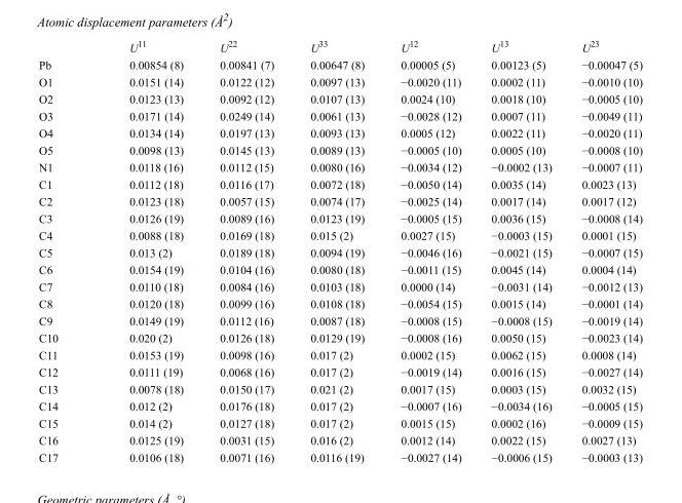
<table><thead><tr><td></td><td>U<sup>11</sup></td><td>U<sup>22</sup></td><td>U<sup>33</sup></td><td>U<sup>12</sup></td><td>U<sup>13</sup></td><td>U<sup>23</sup></td></tr></thead><tbody><tr><td>Pb</td><td>0.00854 (8)</td><td>0.00841 (7)</td><td>0.00647 (8)</td><td>0.00005 (5)</td><td>0.00123 (5)</td><td>−0.00047 (5)</td></tr><tr><td>O1</td><td>0.0151 (14)</td><td>0.0122 (12)</td><td>0.0097 (13)</td><td>−0.0020 (11)</td><td>0.0002 (11)</td><td>−0.0010 (10)</td></tr><tr><td>O2</td><td>0.0123 (13)</td><td>0.0092 (12)</td><td>0.0107 (13)</td><td>0.0024 (10)</td><td>0.0018 (10)</td><td>−0.0005 (10)</td></tr><tr><td>O3</td><td>0.0171 (14)</td><td>0.0249 (14)</td><td>0.0061 (13)</td><td>−0.0028 (12)</td><td>0.0007 (11)</td><td>−0.0049 (11)</td></tr><tr><td>O4</td><td>0.0134 (14)</td><td>0.0197 (13)</td><td>0.0093 (13)</td><td>0.0005 (12)</td><td>0.0022 (11)</td><td>−0.0020 (11)</td></tr><tr><td>O5</td><td>0.0098 (13)</td><td>0.0145 (13)</td><td>0.0089 (13)</td><td>−0.0005 (10)</td><td>0.0005 (10)</td><td>−0.0008 (10)</td></tr><tr><td>N1</td><td>0.0118 (16)</td><td>0.0112 (15)</td><td>0.0080 (16)</td><td>−0.0034 (12)</td><td>−0.0002 (13)</td><td>−0.0007 (11)</td></tr><tr><td>C1</td><td>0.0112 (18)</td><td>0.0116 (17)</td><td>0.0072 (18)</td><td>−0.0050 (14)</td><td>0.0035 (14)</td><td>0.0023 (13)</td></tr><tr><td>C2</td><td>0.0123 (18)</td><td>0.0057 (15)</td><td>0.0074 (17)</td><td>−0.0025 (14)</td><td>0.0017 (14)</td><td>0.0017 (12)</td></tr><tr><td>C3</td><td>0.0126 (19)</td><td>0.0089 (16)</td><td>0.0123 (19)</td><td>−0.0005 (15)</td><td>0.0036 (15)</td><td>−0.0008 (14)</td></tr><tr><td>C4</td><td>0.0088 (18)</td><td>0.0169 (18)</td><td>0.015 (2)</td><td>0.0027 (15)</td><td>−0.0003 (15)</td><td>0.0001 (15)</td></tr><tr><td>C5</td><td>0.013 (2)</td><td>0.0189 (18)</td><td>0.0094 (19)</td><td>−0.0046 (16)</td><td>−0.0021 (15)</td><td>−0.0007 (15)</td></tr><tr><td>C6</td><td>0.0154 (19)</td><td>0.0104 (16)</td><td>0.0080 (18)</td><td>−0.0011 (15)</td><td>0.0045 (14)</td><td>0.0004 (14)</td></tr><tr><td>C7</td><td>0.0110 (18)</td><td>0.0084 (16)</td><td>0.0103 (18)</td><td>0.0000 (14)</td><td>−0.0031 (14)</td><td>−0.0012 (13)</td></tr><tr><td>C8</td><td>0.0120 (18)</td><td>0.0099 (16)</td><td>0.0108 (18)</td><td>−0.0054 (15)</td><td>0.0015 (14)</td><td>−0.0001 (14)</td></tr><tr><td>C9</td><td>0.0149 (19)</td><td>0.0112 (16)</td><td>0.0087 (18)</td><td>−0.0008 (15)</td><td>−0.0008 (15)</td><td>−0.0019 (14)</td></tr><tr><td>C10</td><td>0.020 (2)</td><td>0.0126 (18)</td><td>0.0129 (19)</td><td>−0.0008 (16)</td><td>0.0050 (15)</td><td>−0.0023 (14)</td></tr><tr><td>C11</td><td>0.0153 (19)</td><td>0.0098 (16)</td><td>0.017 (2)</td><td>0.0002 (15)</td><td>0.0062 (15)</td><td>0.0008 (14)</td></tr><tr><td>C12</td><td>0.0111 (19)</td><td>0.0068 (16)</td><td>0.017 (2)</td><td>−0.0019 (14)</td><td>0.0016 (15)</td><td>−0.0027 (14)</td></tr><tr><td>C13</td><td>0.0078 (18)</td><td>0.0150 (17)</td><td>0.021 (2)</td><td>0.0017 (15)</td><td>0.0003 (15)</td><td>0.0032 (15)</td></tr><tr><td>C14</td><td>0.012 (2)</td><td>0.0176 (18)</td><td>0.017 (2)</td><td>−0.0007 (16)</td><td>−0.0034 (16)</td><td>−0.0005 (15)</td></tr><tr><td>C15</td><td>0.014 (2)</td><td>0.0127 (18)</td><td>0.017 (2)</td><td>0.0015 (15)</td><td>0.0002 (16)</td><td>−0.0009 (15)</td></tr><tr><td>C16</td><td>0.0125 (19)</td><td>0.0031 (15)</td><td>0.016 (2)</td><td>0.0012 (14)</td><td>0.0022 (15)</td><td>0.0027 (13)</td></tr><tr><td>C17</td><td>0.0106 (18)</td><td>0.0071 (16)</td><td>0.0116 (19)</td><td>−0.0027 (14)</td><td>−0.0006 (15)</td><td>−0.0003 (13)</td></tr></tbody></table>